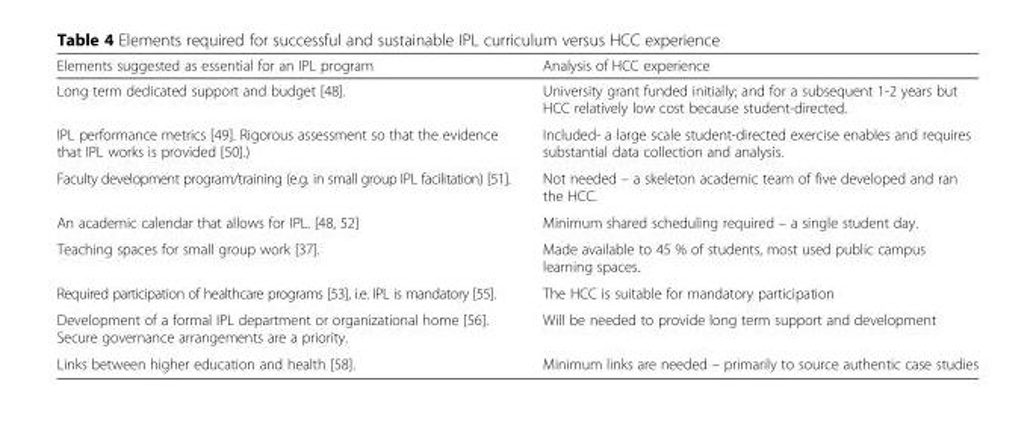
<table><thead><tr><td>Elements suggested as essential for an IPL program</td><td>Analysis of HCC experience</td></tr></thead><tbody><tr><td>Long term dedicated support and budget [48].</td><td>University grant funded initially; and for a subsequent 1-2 years but HCC relatively low cost because student-directed.</td></tr><tr><td>IPL performance metrics [49]. Rigorous assessment so that the evidence that IPL works is provided [50].)</td><td>Included- a large scale student-directed exercise enables and requires substantial data collection and analysis.</td></tr><tr><td>Faculty development program/training (e.g. in small group IPL facilitation) [51].</td><td>Not needed – a skeleton academic team of five developed and ran the HCC.</td></tr><tr><td>An academic calendar that allows for IPL. [48, 52]</td><td>Minimum shared scheduling required – a single student day.</td></tr><tr><td>Teaching spaces for small group work [37].</td><td>Made available to 45 % of students, most used public campus learning spaces.</td></tr><tr><td>Required participation of healthcare programs [53], i.e. IPL is mandatory [55].</td><td>The HCC is suitable for mandatory participation</td></tr><tr><td>Development of a formal IPL department or organizational home [56]. Secure governance arrangements are a priority.</td><td>Will be needed to provide long term support and development</td></tr><tr><td>Links between higher education and health [58].</td><td>Minimum links are needed – primarily to source authentic case studies</td></tr></tbody></table>